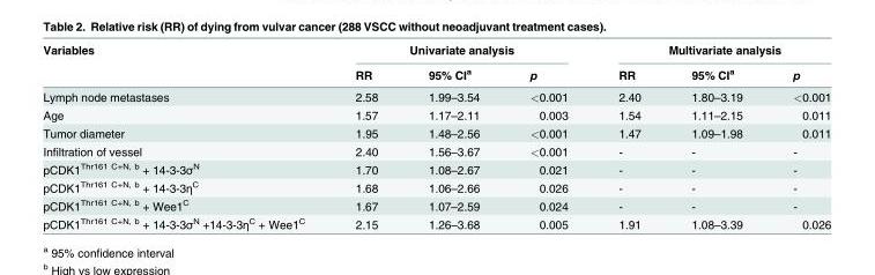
<table><thead><tr><td rowspan="2">Variables</td><td colspan="3">Univariate analysis</td><td colspan="3">Multivariate analysis</td></tr><tr><td>RR</td><td>95% CI<sup>a</sup></td><td>p</td><td>RR</td><td>95% CI<sup>a</sup></td><td>p</td></tr></thead><tbody><tr><td>Lymph node metastases</td><td>2.58</td><td>1.99–3.54</td><td>&lt;0.001</td><td>2.40</td><td>1.80–3.19</td><td>&lt;0.001</td></tr><tr><td>Age</td><td>1.57</td><td>1.17–2.11</td><td>0.003</td><td>1.54</td><td>1.11–2.15</td><td>0.011</td></tr><tr><td>Tumor diameter</td><td>1.95</td><td>1.48–2.56</td><td>&lt;0.001</td><td>1.47</td><td>1.09–1.98</td><td>0.011</td></tr><tr><td>Infiltration of vessel</td><td>2.40</td><td>1.56–3.67</td><td>&lt;0.001</td><td>-</td><td>-</td><td>-</td></tr><tr><td>pCDK1<sup>Thr161 C+N, b</sup> + 14-3-3σ<sup>N</sup></td><td>1.70</td><td>1.08–2.67</td><td>0.021</td><td>-</td><td>-</td><td>-</td></tr><tr><td>pCDK1<sup>Thr161 C+N, b</sup> + 14-3-3η<sup>C</sup></td><td>1.68</td><td>1.06–2.66</td><td>0.026</td><td>-</td><td>-</td><td>-</td></tr><tr><td>pCDK1<sup>Thr161 C+N, b</sup> + Wee1<sup>C</sup></td><td>1.67</td><td>1.07–2.59</td><td>0.024</td><td>-</td><td>-</td><td>-</td></tr><tr><td>pCDK1<sup>Thr161 C+N, b</sup> + 14-3-3σ<sup>N</sup> +14-3-3η<sup>C</sup> + Wee1<sup>C</sup></td><td>2.15</td><td>1.26–3.68</td><td>0.005</td><td>1.91</td><td>1.08–3.39</td><td>0.026</td></tr></tbody></table>